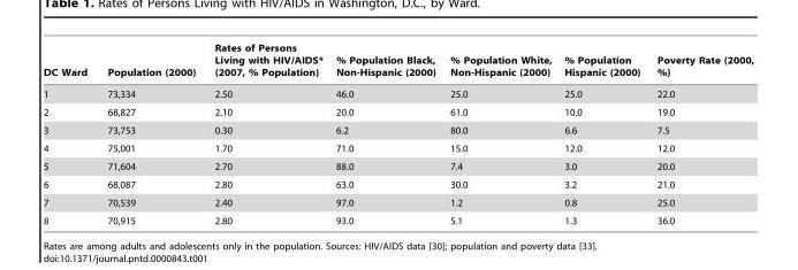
<table><thead><tr><td>DC Ward</td><td>Population (2000)</td><td>Rates of Persons Living with HIV/AIDS* (2007, % Population)</td><td>% Population Black, Non-Hispanic (2000)</td><td>% Population White, Non-Hispanic (2000)</td><td>% Population Hispanic (2000)</td><td>Poverty Rate (2000, %)</td></tr></thead><tbody><tr><td>1</td><td>73,334</td><td>2.50</td><td>46.0</td><td>25.0</td><td>25.0</td><td>22.0</td></tr><tr><td>2</td><td>68,827</td><td>2.10</td><td>20.0</td><td>61.0</td><td>10.0</td><td>19.0</td></tr><tr><td>3</td><td>73,753</td><td>0.30</td><td>6.2</td><td>80.0</td><td>6.6</td><td>7.5</td></tr><tr><td>4</td><td>75,001</td><td>1.70</td><td>71.0</td><td>15.0</td><td>12.0</td><td>12.0</td></tr><tr><td>5</td><td>71,604</td><td>2.70</td><td>88.0</td><td>7.4</td><td>3.0</td><td>20.0</td></tr><tr><td>6</td><td>68,087</td><td>2.80</td><td>63.0</td><td>30.0</td><td>3.2</td><td>21.0</td></tr><tr><td>7</td><td>70,539</td><td>2.40</td><td>97.0</td><td>1.2</td><td>0.8</td><td>25.0</td></tr><tr><td>8</td><td>70,915</td><td>2.80</td><td>93.0</td><td>5.1</td><td>1.3</td><td>36.0</td></tr></tbody></table>